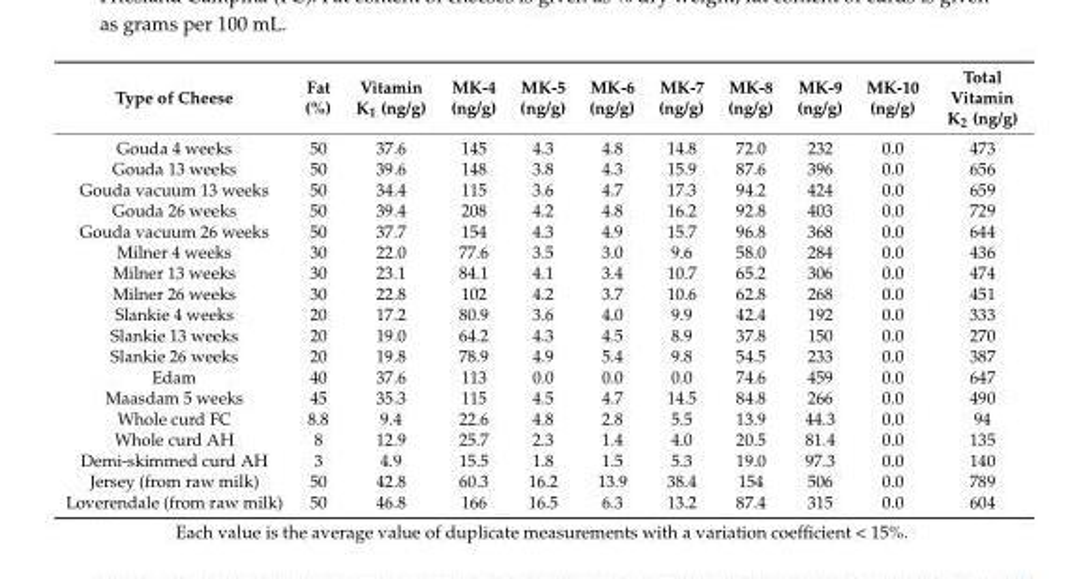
<table><thead><tr><td>Type of Cheese</td><td>Fat (%)</td><td>Vitamin K<sub>1</sub> (ng/g)</td><td>MK-4 (ng/g)</td><td>MK-5 (ng/g)</td><td>MK-6 (ng/g)</td><td>MK-7 (ng/g)</td><td>MK-8 (ng/g)</td><td>MK-9 (ng/g)</td><td>MK-10 (ng/g)</td><td>Total Vitamin K<sub>2</sub> (ng/g)</td></tr></thead><tbody><tr><td>Gouda 4 weeks</td><td>50</td><td>37.6</td><td>145</td><td>4.3</td><td>4.8</td><td>14.8</td><td>72.0</td><td>232</td><td>0.0</td><td>473</td></tr><tr><td>Gouda 13 weeks</td><td>50</td><td>39.6</td><td>148</td><td>3.8</td><td>4.3</td><td>15.9</td><td>87.6</td><td>396</td><td>0.0</td><td>656</td></tr><tr><td>Gouda vacuum 13 weeks</td><td>50</td><td>34.4</td><td>115</td><td>3.6</td><td>4.7</td><td>17.3</td><td>94.2</td><td>424</td><td>0.0</td><td>659</td></tr><tr><td>Gouda 26 weeks</td><td>50</td><td>39.4</td><td>208</td><td>4.2</td><td>4.8</td><td>16.2</td><td>92.8</td><td>403</td><td>0.0</td><td>729</td></tr><tr><td>Gouda vacuum 26 weeks</td><td>50</td><td>37.7</td><td>154</td><td>4.3</td><td>4.9</td><td>15.7</td><td>96.8</td><td>368</td><td>0.0</td><td>644</td></tr><tr><td>Milner 4 weeks</td><td>30</td><td>22.0</td><td>77.6</td><td>3.5</td><td>3.0</td><td>9.6</td><td>58.0</td><td>284</td><td>0.0</td><td>436</td></tr><tr><td>Milner 13 weeks</td><td>30</td><td>23.1</td><td>84.1</td><td>4.1</td><td>3.4</td><td>10.7</td><td>65.2</td><td>306</td><td>0.0</td><td>474</td></tr><tr><td>Milner 26 weeks</td><td>30</td><td>22.8</td><td>102</td><td>4.2</td><td>3.7</td><td>10.6</td><td>62.8</td><td>268</td><td>0.0</td><td>451</td></tr><tr><td>Slankie 4 weeks</td><td>20</td><td>17.2</td><td>80.9</td><td>3.6</td><td>4.0</td><td>9.9</td><td>42.4</td><td>192</td><td>0.0</td><td>333</td></tr><tr><td>Slankie 13 weeks</td><td>20</td><td>19.0</td><td>64.2</td><td>4.3</td><td>4.5</td><td>8.9</td><td>37.8</td><td>150</td><td>0.0</td><td>270</td></tr><tr><td>Slankie 26 weeks</td><td>20</td><td>19.8</td><td>78.9</td><td>4.9</td><td>5.4</td><td>9.8</td><td>54.5</td><td>233</td><td>0.0</td><td>387</td></tr><tr><td>Edam</td><td>40</td><td>37.6</td><td>113</td><td>0.0</td><td>0.0</td><td>0.0</td><td>74.6</td><td>459</td><td>0.0</td><td>647</td></tr><tr><td>Maasdam 5 weeks</td><td>45</td><td>35.3</td><td>115</td><td>4.5</td><td>4.7</td><td>14.5</td><td>84.8</td><td>266</td><td>0.0</td><td>490</td></tr><tr><td>Whole curd FC</td><td>8.8</td><td>9.4</td><td>22.6</td><td>4.8</td><td>2.8</td><td>5.5</td><td>13.9</td><td>44.3</td><td>0.0</td><td>94</td></tr><tr><td>Whole curd AH</td><td>8</td><td>12.9</td><td>25.7</td><td>2.3</td><td>1.4</td><td>4.0</td><td>20.5</td><td>81.4</td><td>0.0</td><td>135</td></tr><tr><td>Demi-skimmed curd AH</td><td>3</td><td>4.9</td><td>15.5</td><td>1.8</td><td>1.5</td><td>5.3</td><td>19.0</td><td>97.3</td><td>0.0</td><td>140</td></tr><tr><td>Jersey (from raw milk)</td><td>50</td><td>42.8</td><td>60.3</td><td>16.2</td><td>13.9</td><td>38.4</td><td>154</td><td>506</td><td>0.0</td><td>789</td></tr><tr><td>Loverendale (from raw milk)</td><td>50</td><td>46.8</td><td>166</td><td>16.5</td><td>6.3</td><td>13.2</td><td>87.4</td><td>315</td><td>0.0</td><td>604</td></tr></tbody></table>